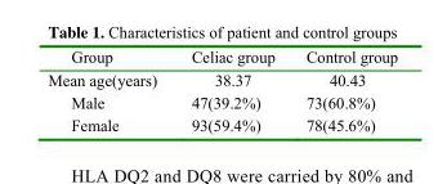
<table><thead><tr><td>Group</td><td>Celiac group</td><td>Control group</td></tr></thead><tbody><tr><td>Mean age(years)</td><td>38.37</td><td>40.43</td></tr><tr><td>Male</td><td>47(39.2%)</td><td>73(60.8%)</td></tr><tr><td>Female</td><td>93(59.4%)</td><td>78(45.6%)</td></tr></tbody></table>